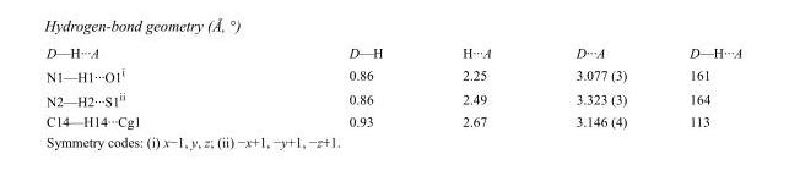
<table><tbody><tr><td>D—H···A</td><td>D—H</td><td>H···A</td><td>D···A</td><td>D—H···A</td></tr><tr><td>N1—H1···O1<sup>i</sup></td><td>0.86</td><td>2.25</td><td>3.077 (3)</td><td>161</td></tr><tr><td>N2—H2···S1<sup>ii</sup></td><td>0.86</td><td>2.49</td><td>3.323 (3)</td><td>164</td></tr><tr><td>C14—H14···Cg1</td><td>0.93</td><td>2.67</td><td>3.146 (4)</td><td>113</td></tr></tbody></table>